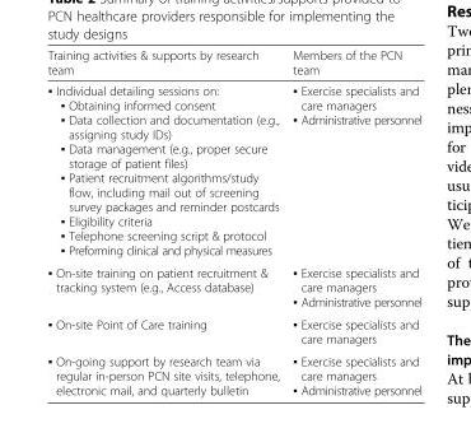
<table><thead><tr><td>Training activities &amp; supports by research team</td><td>Members of the PCN team</td></tr></thead><tbody><tr><td>▪ Individual detailing sessions on: ▪ Obtaining informed consent ▪ Data collection and documentation (e.g., assigning study IDs) ▪ Data management (e.g., proper secure storage of patient files) ▪ Patient recruitment algorithms/study flow, including mail out of screening survey packages and reminder postcards ▪ Eligibility criteria ▪ Telephone screening script &amp; protocol ▪ Preforming clinical and physical measures</td><td>▪ Exercise specialists and care managers ▪ Administrative personnel</td></tr><tr><td>▪ On-site training on patient recruitment &amp; tracking system (e.g., Access database)</td><td>▪ Exercise specialists and care managers ▪ Administrative personnel</td></tr><tr><td>▪ On-site Point of Care training</td><td>▪ Exercise specialists and care managers</td></tr><tr><td>▪ On-going support by research team via regular in-person PCN site visits, telephone, electronic mail, and quarterly bulletin</td><td>▪ Exercise specialists and care managers ▪ Administrative personnel</td></tr></tbody></table>